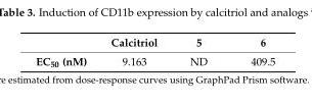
<table><thead><tr><td></td><td>Calcitriol</td><td>5</td><td>6</td></tr></thead><tbody><tr><td>EC50 (nM)</td><td>9.163</td><td>ND</td><td>409.5</td></tr></tbody></table>